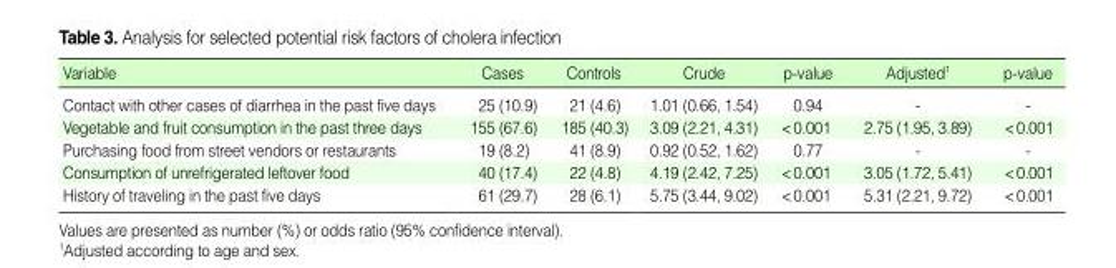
<table><thead><tr><td>Variable</td><td>Cases</td><td>Controls</td><td>Crude</td><td>p-value</td><td>Adjusted<sup>1</sup></td><td>p-value</td></tr></thead><tbody><tr><td>Contact with other cases of diarrhea in the past five days</td><td>25 (10.9)</td><td>21 (4.6)</td><td>1.01 (0.66, 1.54)</td><td>0.94</td><td>-</td><td>-</td></tr><tr><td>Vegetable and fruit consumption in the past three days</td><td>155 (67.6)</td><td>185 (40.3)</td><td>3.09 (2.21, 4.31)</td><td>&lt;0.001</td><td>2.75 (1.95, 3.89)</td><td>&lt;0.001</td></tr><tr><td>Purchasing food from street vendors or restaurants</td><td>19 (8.2)</td><td>41 (8.9)</td><td>0.92 (0.52, 1.62)</td><td>0.77</td><td>-</td><td>-</td></tr><tr><td>Consumption of unrefrigerated leftover food</td><td>40 (17.4)</td><td>22 (4.8)</td><td>4.19 (2.42, 7.25)</td><td>&lt;0.001</td><td>3.05 (1.72, 5.41)</td><td>&lt;0.001</td></tr><tr><td>History of traveling in the past five days</td><td>61 (29.7)</td><td>28 (6.1)</td><td>5.75 (3.44, 9.02)</td><td>&lt;0.001</td><td>5.31 (2.21, 9.72)</td><td>&lt;0.001</td></tr></tbody></table>